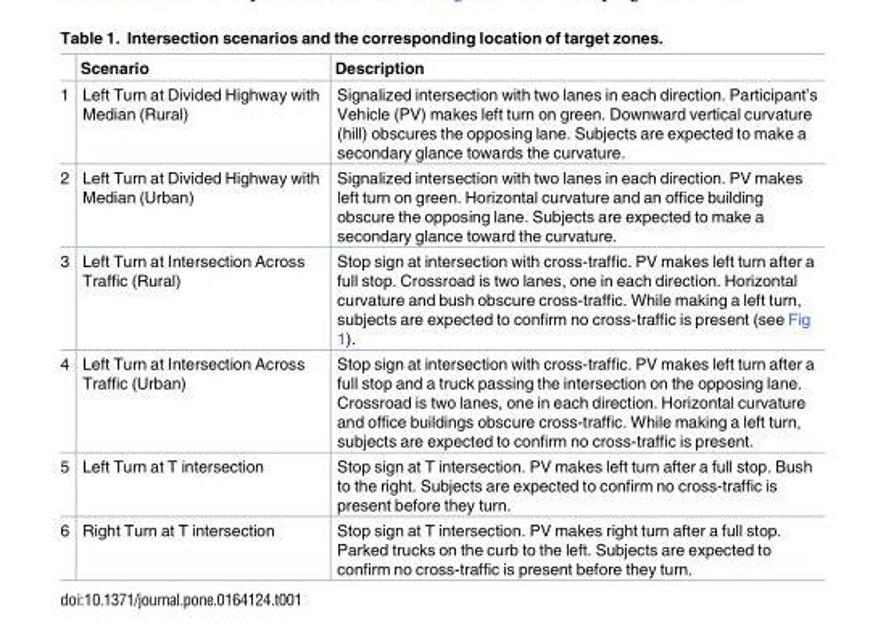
<table><thead><tr><td></td><td>Scenario</td><td>Description</td></tr></thead><tbody><tr><td>1</td><td>Left Turn at Divided Highway with Median (Rural)</td><td>Signalized intersection with two lanes in each direction. Participant’s Vehicle (PV) makes left turn on green. Downward vertical curvature (hill) obscures the opposing lane. Subjects are expected to make a secondary glance towards the curvature.</td></tr><tr><td>2</td><td>Left Turn at Divided Highway with Median (Urban)</td><td>Signalized intersection with two lanes in each direction. PV makes left turn on green. Horizontal curvature and an office building obscure the opposing lane. Subjects are expected to make a secondary glance toward the curvature.</td></tr><tr><td>3</td><td>Left Turn at Intersection Across Traffic (Rural)</td><td>Stop sign at intersection with cross-traffic. PV makes left turn after a full stop. Crossroad is two lanes, one in each direction. Horizontal curvature and bush obscure cross-traffic. While making a left turn, subjects are expected to confirm no cross-traffic is present (see Fig 1).</td></tr><tr><td>4</td><td>Left Turn at Intersection Across Traffic (Urban)</td><td>Stop sign at intersection with cross-traffic. PV makes left turn after a full stop and a truck passing the intersection on the opposing lane. Crossroad is two lanes, one in each direction. Horizontal curvature and office buildings obscure cross-traffic. While making a left turn, subjects are expected to confirm no cross-traffic is present.</td></tr><tr><td>5</td><td>Left Turn at T intersection</td><td>Stop sign at T intersection. PV makes left turn after a full stop. Bush to the right. Subjects are expected to confirm no cross-traffic is present before they turn.</td></tr><tr><td>6</td><td>Right Turn at T intersection</td><td>Stop sign at T intersection. PV makes right turn after a full stop. Parked trucks on the curb to the left. Subjects are expected to confirm no cross-traffic is present before they turn.</td></tr></tbody></table>